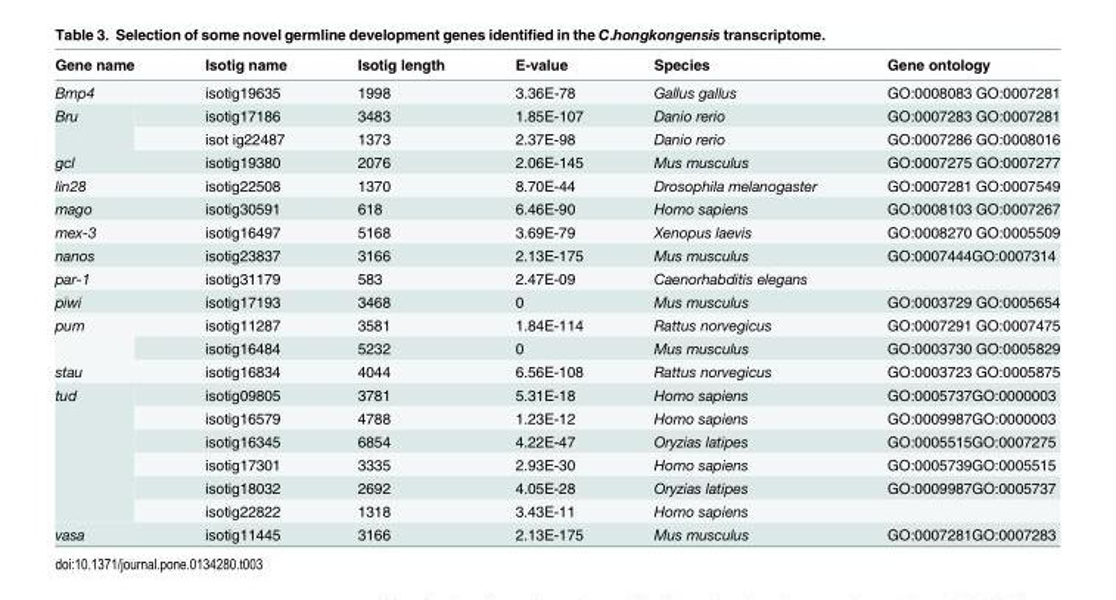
<table><thead><tr><td>Gene name</td><td>Isotig name</td><td>Isotig length</td><td>E-value</td><td>Species</td><td>Gene ontology</td></tr></thead><tbody><tr><td>Bmp4</td><td>isotig19635</td><td>1998</td><td>3.36E-78</td><td>Gallus gallus</td><td>GO:0008083 GO:0007281</td></tr><tr><td rowspan="2">Bru</td><td>isotig17186</td><td>3483</td><td>1.85E-107</td><td>Danio rerio</td><td>GO:0007283 GO:0007281</td></tr><tr><td>isot ig22487</td><td>1373</td><td>2.37E-98</td><td>Danio rerio</td><td>GO:0007286 GO:0008016</td></tr><tr><td>gcl</td><td>isotig19380</td><td>2076</td><td>2.06E-145</td><td>Mus musculus</td><td>GO:0007275 GO:0007277</td></tr><tr><td>lin28</td><td>isotig22508</td><td>1370</td><td>8.70E-44</td><td>Drosophila melanogaster</td><td>GO:0007281 GO:0007549</td></tr><tr><td>mago</td><td>isotig30591</td><td>618</td><td>6.46E-90</td><td>Homo sapiens</td><td>GO:0008103 GO:0007267</td></tr><tr><td>mex-3</td><td>isotig16497</td><td>5168</td><td>3.69E-79</td><td>Xenopus laevis</td><td>GO:0008270 GO:0005509</td></tr><tr><td>nanos</td><td>isotig23837</td><td>3166</td><td>2.13E-175</td><td>Mus musculus</td><td>GO:0007444GO:0007314</td></tr><tr><td>par-1</td><td>isotig31179</td><td>583</td><td>2.47E-09</td><td>Caenorhabditis elegans</td><td></td></tr><tr><td>piwi</td><td>isotig17193</td><td>3468</td><td>0</td><td>Mus musculus</td><td>GO:0003729 GO:0005654</td></tr><tr><td rowspan="2">pum</td><td>isotig11287</td><td>3581</td><td>1.84E-114</td><td>Rattus norvegicus</td><td>GO:0007291 GO:0007475</td></tr><tr><td>isotig16484</td><td>5232</td><td>0</td><td>Mus musculus</td><td>GO:0003730 GO:0005829</td></tr><tr><td>stau</td><td>isotig16834</td><td>4044</td><td>6.56E-108</td><td>Rattus norvegicus</td><td>GO:0003723 GO:0005875</td></tr><tr><td rowspan="6">tud</td><td>isotig09805</td><td>3781</td><td>5.31E-18</td><td>Homo sapiens</td><td>GO:0005737GO:0000003</td></tr><tr><td>isotig16579</td><td>4788</td><td>1.23E-12</td><td>Homo sapiens</td><td>GO:0009987GO:0000003</td></tr><tr><td>isotig16345</td><td>6854</td><td>4.22E-47</td><td>Oryzias latipes</td><td>GO:0005515GO:0007275</td></tr><tr><td>isotig17301</td><td>3335</td><td>2.93E-30</td><td>Homo sapiens</td><td>GO:0005739GO:0005515</td></tr><tr><td>isotig18032</td><td>2692</td><td>4.05E-28</td><td>Oryzias latipes</td><td>GO:0009987GO:0005737</td></tr><tr><td>isotig22822</td><td>1318</td><td>3.43E-11</td><td>Homo sapiens</td><td></td></tr><tr><td>vasa</td><td>isotig11445</td><td>3166</td><td>2.13E-175</td><td>Mus musculus</td><td>GO:0007281GO:0007283</td></tr></tbody></table>